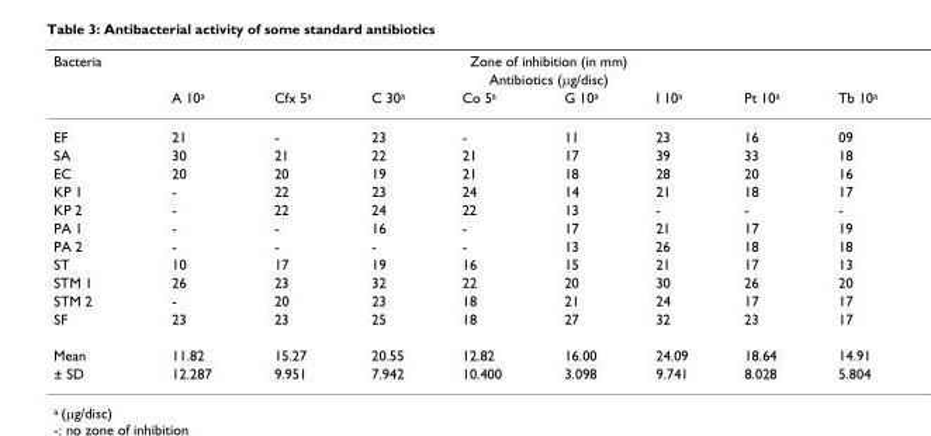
<table><thead><tr><td rowspan="3">Bacteria</td><td rowspan="2" colspan="8">Zone of inhibition (in mm) Antibiotics (μg/disc)</td></tr><tr></tr><tr><td>A 10<sup>a</sup></td><td>Cfx 5<sup>a</sup></td><td>C 30<sup>a</sup></td><td>Co 5<sup>a</sup></td><td>G 10<sup>a</sup></td><td>I 10<sup>a</sup></td><td>Pt 10<sup>a</sup></td><td>Tb 10<sup>a</sup></td></tr></thead><tbody><tr><td>EF</td><td>21</td><td>-</td><td>23</td><td>-</td><td>11</td><td>23</td><td>16</td><td>09</td></tr><tr><td>SA</td><td>30</td><td>21</td><td>22</td><td>21</td><td>17</td><td>39</td><td>33</td><td>18</td></tr><tr><td>EC</td><td>20</td><td>20</td><td>19</td><td>21</td><td>18</td><td>28</td><td>20</td><td>16</td></tr><tr><td>KP 1</td><td>-</td><td>22</td><td>23</td><td>24</td><td>14</td><td>21</td><td>18</td><td>17</td></tr><tr><td>KP 2</td><td>-</td><td>22</td><td>24</td><td>22</td><td>13</td><td>-</td><td>-</td><td>-</td></tr><tr><td>PA 1</td><td>-</td><td>-</td><td>16</td><td>-</td><td>17</td><td>21</td><td>17</td><td>19</td></tr><tr><td>PA 2</td><td>-</td><td>-</td><td>-</td><td>-</td><td>13</td><td>26</td><td>18</td><td>18</td></tr><tr><td>ST</td><td>10</td><td>17</td><td>19</td><td>16</td><td>15</td><td>21</td><td>17</td><td>13</td></tr><tr><td>STM 1</td><td>26</td><td>23</td><td>32</td><td>22</td><td>20</td><td>30</td><td>26</td><td>20</td></tr><tr><td>STM 2</td><td>-</td><td>20</td><td>23</td><td>18</td><td>21</td><td>24</td><td>17</td><td>17</td></tr><tr><td>SF</td><td>23</td><td>23</td><td>25</td><td>18</td><td>27</td><td>32</td><td>23</td><td>17</td></tr><tr><td>Mean</td><td>11.82</td><td>15.27</td><td>20.55</td><td>12.82</td><td>16.00</td><td>24.09</td><td>18.64</td><td>14.91</td></tr><tr><td>± SD</td><td>12.287</td><td>9.951</td><td>7.942</td><td>10.400</td><td>3.098</td><td>9.741</td><td>8.028</td><td>5.804</td></tr></tbody></table>